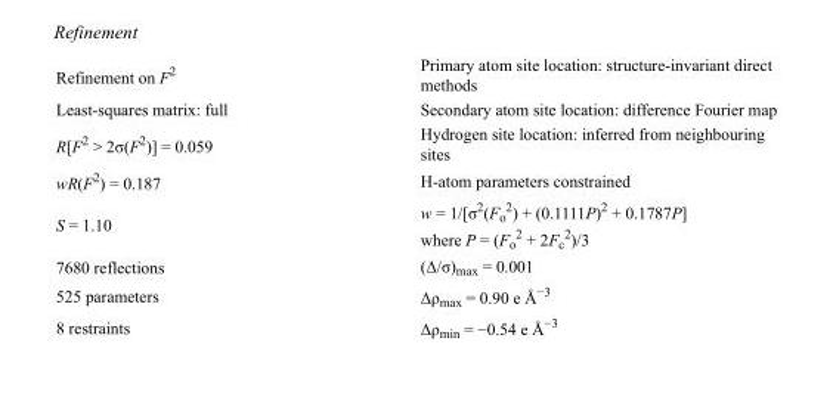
<table><tbody><tr><td>Refinement on F<sup>2</sup></td><td>Primary atom site location: structure-invariant direct methods</td></tr><tr><td>Least-squares matrix: full</td><td>Secondary atom site location: difference Fourier map</td></tr><tr><td>R[F<sup>2</sup> &gt; 2σ(F<sup>2</sup>)] = 0.059</td><td>Hydrogen site location: inferred from neighbouring sites</td></tr><tr><td>wR(F<sup>2</sup>) = 0.187</td><td>H-atom parameters constrained</td></tr><tr><td>S = 1.10</td><td>w = 1/[σ<sup>2</sup>(F<sub>o</sub> <sup>2</sup>) + (0.1111P)<sup>2</sup> + 0.1787P] where P = (F<sub>o</sub> <sup>2</sup> + 2F<sub>c</sub> <sup>2</sup>)/3</td></tr><tr><td>7680 reflections</td><td>(Δ/σ)<sub>max</sub> = 0.001</td></tr><tr><td>525 parameters</td><td>Δρ<sub>max</sub> = 0.90 e Å<sup>−3</sup></td></tr><tr><td>8 restraints</td><td>Δρ<sub>min</sub> = −0.54 e Å<sup>−3</sup></td></tr></tbody></table>